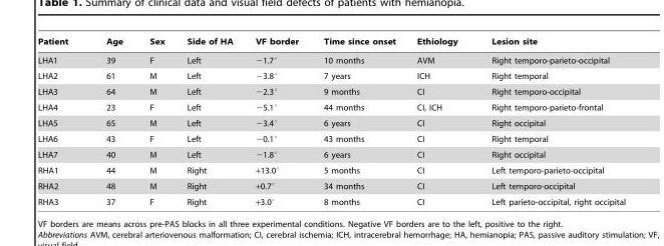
<table><thead><tr><td>Patient</td><td>Age</td><td>Sex</td><td>Side of HA</td><td>VF border</td><td>Time since onset</td><td>Ethiology</td><td>Lesion site</td></tr></thead><tbody><tr><td>LHA1</td><td>39</td><td>F</td><td>Left</td><td>−1.7°</td><td>10 months</td><td>AVM</td><td>Right temporo-parieto-occipital</td></tr><tr><td>LHA2</td><td>61</td><td>M</td><td>Left</td><td>−3.8°</td><td>7 years</td><td>ICH</td><td>Right temporal</td></tr><tr><td>LHA3</td><td>64</td><td>M</td><td>Left</td><td>−2.3°</td><td>9 months</td><td>CI</td><td>Right temporo-occipital</td></tr><tr><td>LHA4</td><td>23</td><td>F</td><td>Left</td><td>−5.1°</td><td>44 months</td><td>CI, ICH</td><td>Right temporo-parieto-frontal</td></tr><tr><td>LHA5</td><td>65</td><td>M</td><td>Left</td><td>−3.4°</td><td>6 years</td><td>CI</td><td>Right occipital</td></tr><tr><td>LHA6</td><td>43</td><td>F</td><td>Left</td><td>−0.1°</td><td>43 months</td><td>CI</td><td>Right temporal</td></tr><tr><td>LHA7</td><td>40</td><td>M</td><td>Left</td><td>−1.8°</td><td>6 years</td><td>CI</td><td>Right occipital</td></tr><tr><td>RHA1</td><td>44</td><td>M</td><td>Right</td><td>+13.0°</td><td>5 months</td><td>CI</td><td>Left temporo-parieto-occipital</td></tr><tr><td>RHA2</td><td>48</td><td>M</td><td>Right</td><td>+0.7°</td><td>34 months</td><td>CI</td><td>Left temporo-occipital</td></tr><tr><td>RHA3</td><td>37</td><td>F</td><td>Right</td><td>+3.0°</td><td>8 months</td><td>CI</td><td>Left parieto-occipital, right occipital</td></tr></tbody></table>